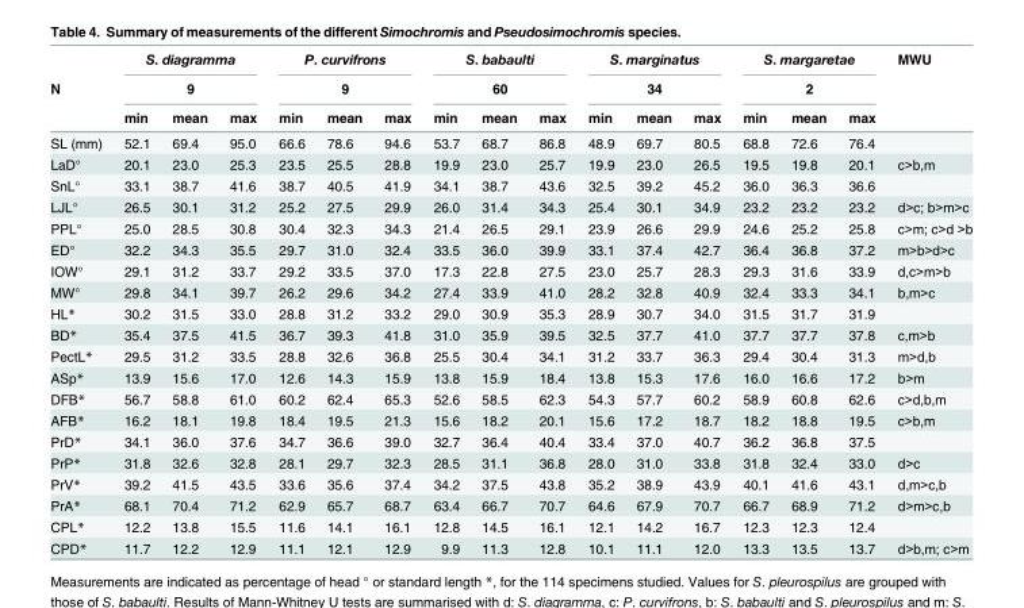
<table><thead><tr><td rowspan="3">N</td><td rowspan="2" colspan="3">S. diagramma 9</td><td rowspan="2" colspan="3">P. curvifrons 9</td><td rowspan="2" colspan="3">S. babaulti 60</td><td rowspan="2" colspan="3">S. marginatus 34</td><td rowspan="2" colspan="3">S. margaretae 2</td><td rowspan="3">MWU</td></tr><tr></tr><tr><td>min</td><td>mean</td><td>max</td><td>min</td><td>mean</td><td>max</td><td>min</td><td>mean</td><td>max</td><td>min</td><td>mean</td><td>max</td><td>min</td><td>mean</td><td>max</td></tr></thead><tbody><tr><td>SL (mm)</td><td>52.1</td><td>69.4</td><td>95.0</td><td>66.6</td><td>78.6</td><td>94.6</td><td>53.7</td><td>68.7</td><td>86.8</td><td>48.9</td><td>69.7</td><td>80.5</td><td>68.8</td><td>72.6</td><td>76.4</td><td></td></tr><tr><td>LaD°</td><td>20.1</td><td>23.0</td><td>25.3</td><td>23.5</td><td>25.5</td><td>28.8</td><td>19.9</td><td>23.0</td><td>25.7</td><td>19.9</td><td>23.0</td><td>26.5</td><td>19.5</td><td>19.8</td><td>20.1</td><td>c&gt;b,m</td></tr><tr><td>SnL°</td><td>33.1</td><td>38.7</td><td>41.6</td><td>38.7</td><td>40.5</td><td>41.9</td><td>34.1</td><td>38.7</td><td>43.6</td><td>32.5</td><td>39.2</td><td>45.2</td><td>36.0</td><td>36.3</td><td>36.6</td><td></td></tr><tr><td>LJL°</td><td>26.5</td><td>30.1</td><td>31.2</td><td>25.2</td><td>27.5</td><td>29.9</td><td>26.0</td><td>31.4</td><td>34.3</td><td>25.4</td><td>30.1</td><td>34.9</td><td>23.2</td><td>23.2</td><td>23.2</td><td>d&gt;c; b&gt;m&gt;c</td></tr><tr><td>PPL°</td><td>25.0</td><td>28.5</td><td>30.8</td><td>30.4</td><td>32.3</td><td>34.3</td><td>21.4</td><td>26.5</td><td>29.1</td><td>23.9</td><td>26.6</td><td>29.9</td><td>24.6</td><td>25.2</td><td>25.8</td><td>c&gt;m; c&gt;d &gt;b</td></tr><tr><td>ED°</td><td>32.2</td><td>34.3</td><td>35.5</td><td>29.7</td><td>31.0</td><td>32.4</td><td>33.5</td><td>36.0</td><td>39.9</td><td>33.1</td><td>37.4</td><td>42.7</td><td>36.4</td><td>36.8</td><td>37.2</td><td>m&gt;b&gt;d&gt;c</td></tr><tr><td>IOW°</td><td>29.1</td><td>31.2</td><td>33.7</td><td>29.2</td><td>33.5</td><td>37.0</td><td>17.3</td><td>22.8</td><td>27.5</td><td>23.0</td><td>25.7</td><td>28.3</td><td>29.3</td><td>31.6</td><td>33.9</td><td>d,c&gt;m&gt;b</td></tr><tr><td>MW°</td><td>29.8</td><td>34.1</td><td>39.7</td><td>26.2</td><td>29.6</td><td>34.2</td><td>27.4</td><td>33.9</td><td>41.0</td><td>28.2</td><td>32.8</td><td>40.9</td><td>32.4</td><td>33.3</td><td>34.1</td><td>b,m&gt;c</td></tr><tr><td>HL*</td><td>30.2</td><td>31.5</td><td>33.0</td><td>28.8</td><td>31.2</td><td>33.2</td><td>29.0</td><td>30.9</td><td>35.3</td><td>28.9</td><td>30.7</td><td>34.0</td><td>31.5</td><td>31.7</td><td>31.9</td><td></td></tr><tr><td>BD*</td><td>35.4</td><td>37.5</td><td>41.5</td><td>36.7</td><td>39.3</td><td>41.8</td><td>31.0</td><td>35.9</td><td>39.5</td><td>32.5</td><td>37.7</td><td>41.0</td><td>37.7</td><td>37.7</td><td>37.8</td><td>c,m&gt;b</td></tr><tr><td>PectL*</td><td>29.5</td><td>31.2</td><td>33.5</td><td>28.8</td><td>32.6</td><td>36.8</td><td>25.5</td><td>30.4</td><td>34.1</td><td>31.2</td><td>33.7</td><td>36.3</td><td>29.4</td><td>30.4</td><td>31.3</td><td>m&gt;d,b</td></tr><tr><td>ASp*</td><td>13.9</td><td>15.6</td><td>17.0</td><td>12.6</td><td>14.3</td><td>15.9</td><td>13.8</td><td>15.9</td><td>18.4</td><td>13.8</td><td>15.3</td><td>17.6</td><td>16.0</td><td>16.6</td><td>17.2</td><td>b&gt;m</td></tr><tr><td>DFB*</td><td>56.7</td><td>58.8</td><td>61.0</td><td>60.2</td><td>62.4</td><td>65.3</td><td>52.6</td><td>58.5</td><td>62.3</td><td>54.3</td><td>57.7</td><td>60.2</td><td>58.9</td><td>60.8</td><td>62.6</td><td>c&gt;d,b,m</td></tr><tr><td>AFB*</td><td>16.2</td><td>18.1</td><td>19.8</td><td>18.4</td><td>19.5</td><td>21.3</td><td>15.6</td><td>18.2</td><td>20.1</td><td>15.6</td><td>17.2</td><td>18.7</td><td>18.2</td><td>18.8</td><td>19.5</td><td>c&gt;b,m</td></tr><tr><td>PrD*</td><td>34.1</td><td>36.0</td><td>37.6</td><td>34.7</td><td>36.6</td><td>39.0</td><td>32.7</td><td>36.4</td><td>40.4</td><td>33.4</td><td>37.0</td><td>40.7</td><td>36.2</td><td>36.8</td><td>37.5</td><td></td></tr><tr><td>PrP*</td><td>31.8</td><td>32.6</td><td>32.8</td><td>28.1</td><td>29.7</td><td>32.3</td><td>28.5</td><td>31.1</td><td>36.8</td><td>28.0</td><td>31.0</td><td>33.8</td><td>31.8</td><td>32.4</td><td>33.0</td><td>d&gt;c</td></tr><tr><td>PrV*</td><td>39.2</td><td>41.5</td><td>43.5</td><td>33.6</td><td>35.6</td><td>37.4</td><td>34.2</td><td>37.5</td><td>43.8</td><td>35.2</td><td>38.9</td><td>43.9</td><td>40.1</td><td>41.6</td><td>43.1</td><td>d,m&gt;c,b</td></tr><tr><td>PrA*</td><td>68.1</td><td>70.4</td><td>71.2</td><td>62.9</td><td>65.7</td><td>68.7</td><td>63.4</td><td>66.7</td><td>70.7</td><td>64.6</td><td>67.9</td><td>70.7</td><td>66.7</td><td>68.9</td><td>71.2</td><td>d&gt;m&gt;c,b</td></tr><tr><td>CPL*</td><td>12.2</td><td>13.8</td><td>15.5</td><td>11.6</td><td>14.1</td><td>16.1</td><td>12.8</td><td>14.5</td><td>16.1</td><td>12.1</td><td>14.2</td><td>16.7</td><td>12.3</td><td>12.3</td><td>12.4</td><td></td></tr><tr><td>CPD*</td><td>11.7</td><td>12.2</td><td>12.9</td><td>11.1</td><td>12.1</td><td>12.9</td><td>9.9</td><td>11.3</td><td>12.8</td><td>10.1</td><td>11.1</td><td>12.0</td><td>13.3</td><td>13.5</td><td>13.7</td><td>d&gt;b,m; c&gt;m</td></tr></tbody></table>